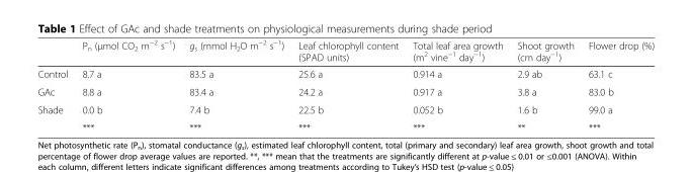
<table><thead><tr><td></td><td>P<sub>n</sub> (μmol CO<sub>2</sub> m<sup>−2</sup> s<sup>−1</sup>)</td><td>g<sub>s</sub> (mmol H<sub>2</sub>O m<sup>−2</sup> s<sup>−1</sup>)</td><td>Leaf chlorophyll content (SPAD units)</td><td>Total leaf area growth (m<sup>2</sup> vine<sup>−1</sup> day<sup>−1</sup>)</td><td>Shoot growth (cm day<sup>−1</sup>)</td><td>Flower drop (%)</td></tr></thead><tbody><tr><td>Control</td><td>8.7 a</td><td>83.5 a</td><td>25.6 a</td><td>0.914 a</td><td>2.9 ab</td><td>63.1 c</td></tr><tr><td>GAc</td><td>8.8 a</td><td>83.4 a</td><td>24.2 a</td><td>0.917 a</td><td>3.8 a</td><td>83.0 b</td></tr><tr><td rowspan="2">Shade</td><td>0.0 b</td><td>7.4 b</td><td>22.5 b</td><td>0.052 b</td><td>1.6 b</td><td>99.0 a</td></tr><tr><td>***</td><td>***</td><td>***</td><td>***</td><td>**</td><td>***</td></tr></tbody></table>